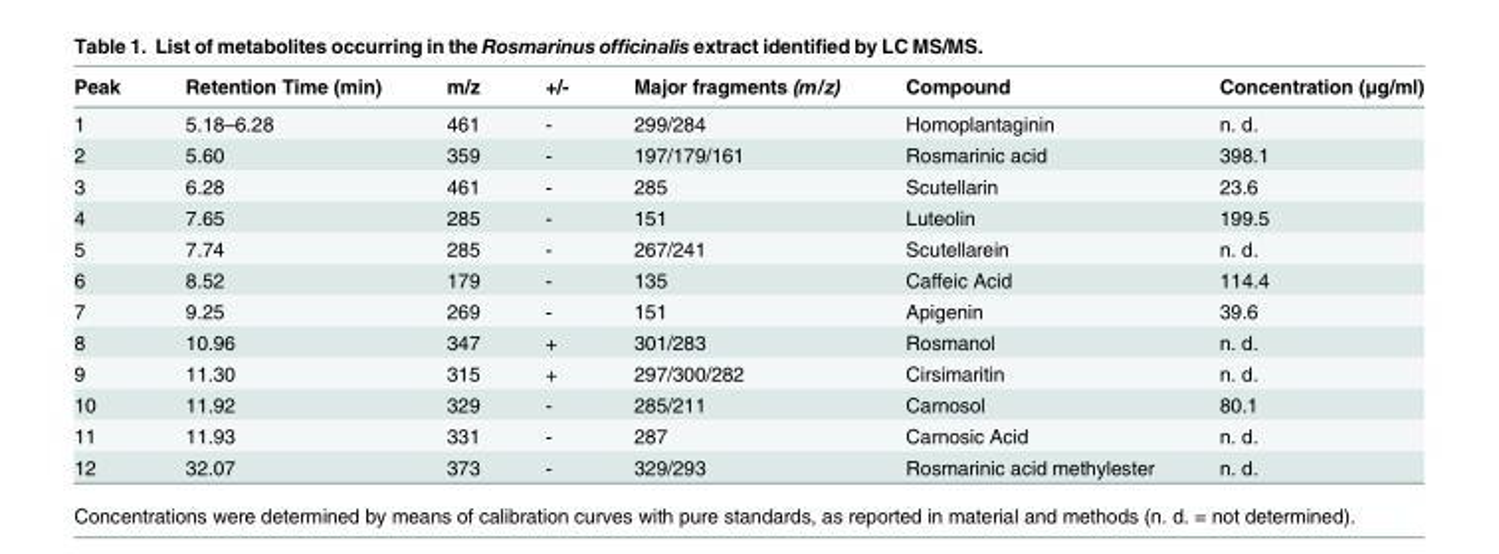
<table><thead><tr><td>Peak</td><td>Retention Time (min)</td><td>m/z</td><td>+/-</td><td>Major fragments (m/z)</td><td>Compound</td><td>Concentration (μg/ml)</td></tr></thead><tbody><tr><td>1</td><td>5.18–6.28</td><td>461</td><td>-</td><td>299/284</td><td>Homoplantaginin</td><td>n. d.</td></tr><tr><td>2</td><td>5.60</td><td>359</td><td>-</td><td>197/179/161</td><td>Rosmarinic acid</td><td>398.1</td></tr><tr><td>3</td><td>6.28</td><td>461</td><td>-</td><td>285</td><td>Scutellarin</td><td>23.6</td></tr><tr><td>4</td><td>7.65</td><td>285</td><td>-</td><td>151</td><td>Luteolin</td><td>199.5</td></tr><tr><td>5</td><td>7.74</td><td>285</td><td>-</td><td>267/241</td><td>Scutellarein</td><td>n. d.</td></tr><tr><td>6</td><td>8.52</td><td>179</td><td>-</td><td>135</td><td>Caffeic Acid</td><td>114.4</td></tr><tr><td>7</td><td>9.25</td><td>269</td><td>-</td><td>151</td><td>Apigenin</td><td>39.6</td></tr><tr><td>8</td><td>10.96</td><td>347</td><td>+</td><td>301/283</td><td>Rosmanol</td><td>n. d.</td></tr><tr><td>9</td><td>11.30</td><td>315</td><td>+</td><td>297/300/282</td><td>Cirsimaritin</td><td>n. d.</td></tr><tr><td>10</td><td>11.92</td><td>329</td><td>-</td><td>285/211</td><td>Carnosol</td><td>80.1</td></tr><tr><td>11</td><td>11.93</td><td>331</td><td>-</td><td>287</td><td>Carnosic Acid</td><td>n. d.</td></tr><tr><td>12</td><td>32.07</td><td>373</td><td>-</td><td>329/293</td><td>Rosmarinic acid methylester</td><td>n. d.</td></tr></tbody></table>